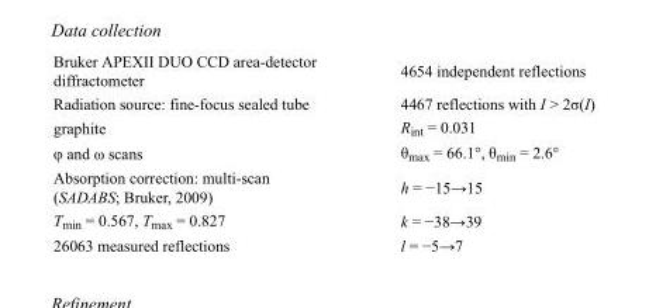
<table><tbody><tr><td>Bruker APEXII DUO CCD area-detector diffractometer</td><td>4654 independent reflections</td></tr><tr><td>Radiation source: fine-focus sealed tube</td><td>4467 reflections with I &gt; 2σ(I)</td></tr><tr><td>graphite</td><td>R<sub>int</sub> = 0.031</td></tr><tr><td>φ and ω scans</td><td>θ<sub>max</sub> = 66.1°, θ<sub>min</sub> = 2.6°</td></tr><tr><td>Absorption correction: multi-scan (SADABS; Bruker, 2009)</td><td>h = −15→15</td></tr><tr><td>T<sub>min</sub> = 0.567, T<sub>max</sub> = 0.827</td><td>k = −38→39</td></tr><tr><td>26063 measured reflections</td><td>l = −5→7</td></tr></tbody></table>